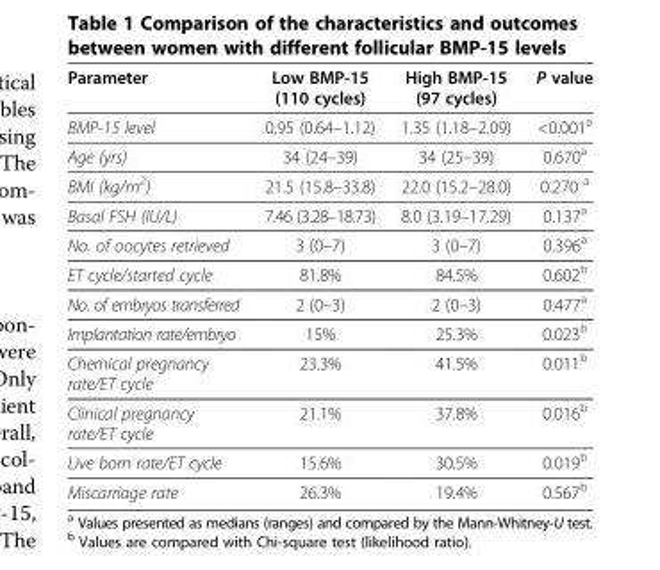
<table><thead><tr><td>Parameter</td><td>Low BMP-15 (110 cycles)</td><td>High BMP-15 (97 cycles)</td><td>P value</td></tr></thead><tbody><tr><td>BMP-15 level</td><td>0.95 (0.64–1.12)</td><td>1.35 (1.18–2.09)</td><td>&lt;0.001<sup>a</sup></td></tr><tr><td>Age (yrs)</td><td>34 (24–39)</td><td>34 (25–39)</td><td>0.670<sup>a</sup></td></tr><tr><td>BMI (kg/m<sup>2</sup>)</td><td>21.5 (15.8–33.8)</td><td>22.0 (15.2–28.0)</td><td>0.270 <sup>a</sup></td></tr><tr><td>Basal FSH (IU/L)</td><td>7.46 (3.28–18.73)</td><td>8.0 (3.19–17.29)</td><td>0.137<sup>a</sup></td></tr><tr><td>No. of oocytes retrieved</td><td>3 (0–7)</td><td>3 (0–7)</td><td>0.396<sup>a</sup></td></tr><tr><td>ET cycle/started cycle</td><td>81.8%</td><td>84.5%</td><td>0.602<sup>b</sup></td></tr><tr><td>No. of embryos transferred</td><td>2 (0–3)</td><td>2 (0–3)</td><td>0.477<sup>a</sup></td></tr><tr><td>Implantation rate/embryo</td><td>15%</td><td>25.3%</td><td>0.023<sup>b</sup></td></tr><tr><td>Chemical pregnancy rate/ET cycle</td><td>23.3%</td><td>41.5%</td><td>0.011<sup>b</sup></td></tr><tr><td>Clinical pregnancy rate/ET cycle</td><td>21.1%</td><td>37.8%</td><td>0.016<sup>b</sup></td></tr><tr><td>Live born rate/ET cycle</td><td>15.6%</td><td>30.5%</td><td>0.019<sup>b</sup></td></tr><tr><td>Miscarriage rate</td><td>26.3%</td><td>19.4%</td><td>0.567<sup>b</sup></td></tr></tbody></table>